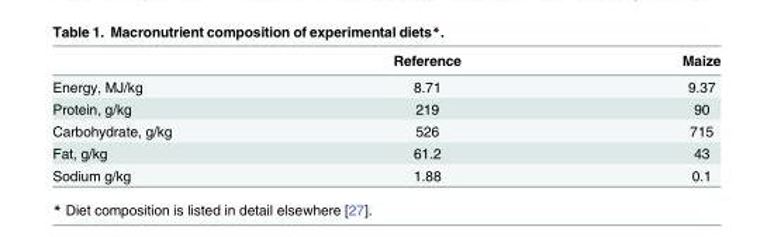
<table><thead><tr><td></td><td>Reference</td><td>Maize</td></tr></thead><tbody><tr><td>Energy, MJ/kg</td><td>8.71</td><td>9.37</td></tr><tr><td>Protein, g/kg</td><td>219</td><td>90</td></tr><tr><td>Carbohydrate, g/kg</td><td>526</td><td>715</td></tr><tr><td>Fat, g/kg</td><td>61.2</td><td>43</td></tr><tr><td>Sodium g/kg</td><td>1.88</td><td>0.1</td></tr></tbody></table>